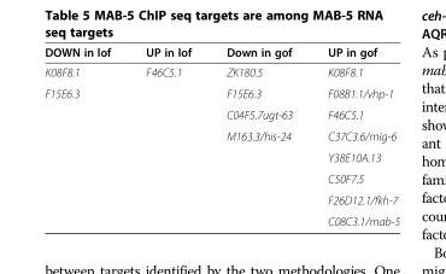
<table><thead><tr><td>DOWN in lof</td><td>UP in lof</td><td>Down in gof</td><td>UP in gof</td></tr></thead><tbody><tr><td>K08F8.1</td><td>F46C5.1</td><td>ZK180.5</td><td>K08F8.1</td></tr><tr><td rowspan="7">F15E6.3</td><td></td><td>F15E6.3</td><td>F08B1.1/vhp-1</td></tr><tr><td rowspan="5"></td><td>C04F5.7ugt-63</td><td>F46C5.1</td></tr><tr><td>M163.3/his-24</td><td>C37C3.6/mig-6</td></tr><tr><td rowspan="3"></td><td>Y38E10A.13</td></tr><tr><td>C50F7.5</td></tr><tr><td>F26D12.1/fkh-7</td></tr><tr><td></td><td></td><td>C08C3.1/mab-5</td></tr></tbody></table>